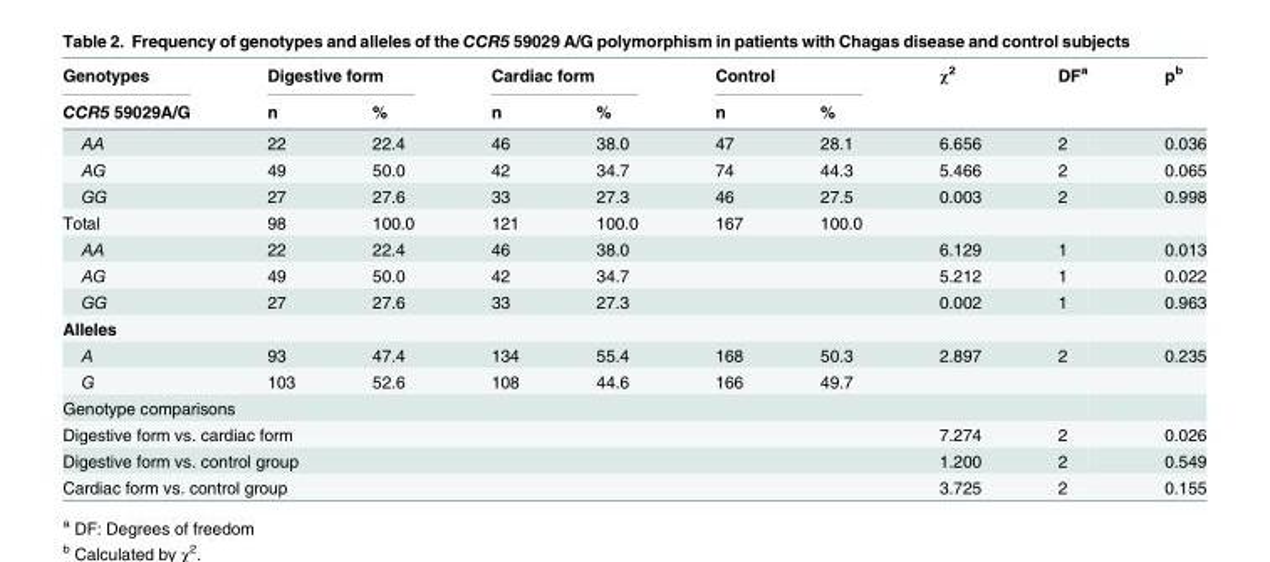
<table><thead><tr><td rowspan="2">Genotypes CCR5 59029A/G</td><td colspan="2">Digestive form</td><td colspan="2">Cardiac form</td><td colspan="2">Control</td><td rowspan="2">χ<sup>2</sup></td><td rowspan="2">DF<sup>a</sup></td><td rowspan="2">p<sup>b</sup></td></tr><tr><td>n</td><td>%</td><td>n</td><td>%</td><td>n</td><td>%</td></tr></thead><tbody><tr><td>AA</td><td>22</td><td>22.4</td><td>46</td><td>38.0</td><td>47</td><td>28.1</td><td>6.656</td><td>2</td><td>0.036</td></tr><tr><td>AG</td><td>49</td><td>50.0</td><td>42</td><td>34.7</td><td>74</td><td>44.3</td><td>5.466</td><td>2</td><td>0.065</td></tr><tr><td>GG</td><td>27</td><td>27.6</td><td>33</td><td>27.3</td><td>46</td><td>27.5</td><td>0.003</td><td>2</td><td>0.998</td></tr><tr><td>Total</td><td>98</td><td>100.0</td><td>121</td><td>100.0</td><td>167</td><td>100.0</td><td></td><td></td><td></td></tr><tr><td>AA</td><td>22</td><td>22.4</td><td>46</td><td>38.0</td><td></td><td></td><td>6.129</td><td>1</td><td>0.013</td></tr><tr><td>AG</td><td>49</td><td>50.0</td><td>42</td><td>34.7</td><td></td><td></td><td>5.212</td><td>1</td><td>0.022</td></tr><tr><td>GG</td><td>27</td><td>27.6</td><td>33</td><td>27.3</td><td></td><td></td><td>0.002</td><td>1</td><td>0.963</td></tr><tr><td colspan="10">Alleles</td></tr><tr><td>A</td><td>93</td><td>47.4</td><td>134</td><td>55.4</td><td>168</td><td>50.3</td><td>2.897</td><td>2</td><td>0.235</td></tr><tr><td>G</td><td>103</td><td>52.6</td><td>108</td><td>44.6</td><td>166</td><td>49.7</td><td></td><td></td><td></td></tr><tr><td colspan="10">Genotype comparisons</td></tr><tr><td colspan="5">Digestive form vs. cardiac form</td><td></td><td></td><td>7.274</td><td>2</td><td>0.026</td></tr><tr><td colspan="5">Digestive form vs. control group</td><td></td><td></td><td>1.200</td><td>2</td><td>0.549</td></tr><tr><td colspan="5">Cardiac form vs. control group</td><td></td><td></td><td>3.725</td><td>2</td><td>0.155</td></tr></tbody></table>